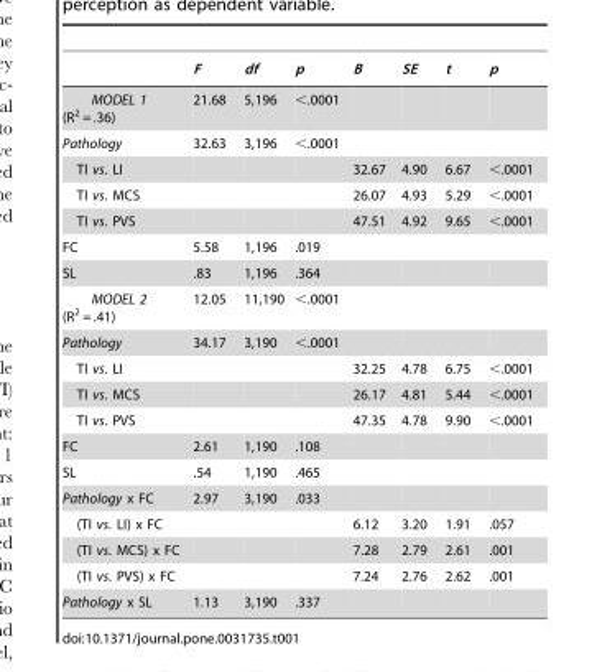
<table><thead><tr><td></td><td>F</td><td>df</td><td>p</td><td>B</td><td>SE</td><td>t</td><td>p</td></tr></thead><tbody><tr><td>MODEL 1 (R<sup>2</sup> = .36)</td><td>21.68</td><td>5,196</td><td>&lt;.0001</td><td></td><td></td><td></td><td></td></tr><tr><td>Pathology</td><td>32.63</td><td>3,196</td><td>&lt;.0001</td><td></td><td></td><td></td><td></td></tr><tr><td>TI vs. LI</td><td></td><td></td><td></td><td>32.67</td><td>4.90</td><td>6.67</td><td>&lt;.0001</td></tr><tr><td>TI vs. MCS</td><td></td><td></td><td></td><td>26.07</td><td>4.93</td><td>5.29</td><td>&lt;.0001</td></tr><tr><td>TI vs. PVS</td><td></td><td></td><td></td><td>47.51</td><td>4.92</td><td>9.65</td><td>&lt;.0001</td></tr><tr><td>FC</td><td>5.58</td><td>1,196</td><td>.019</td><td></td><td></td><td></td><td></td></tr><tr><td>SL</td><td>.83</td><td>1,196</td><td>.364</td><td></td><td></td><td></td><td></td></tr><tr><td>MODEL 2 (R<sup>2</sup> = .41)</td><td>12.05</td><td>11,190</td><td>&lt;.0001</td><td></td><td></td><td></td><td></td></tr><tr><td>Pathology</td><td>34.17</td><td>3,190</td><td>&lt;.0001</td><td></td><td></td><td></td><td></td></tr><tr><td>TI vs. LI</td><td></td><td></td><td></td><td>32.25</td><td>4.78</td><td>6.75</td><td>&lt;.0001</td></tr><tr><td>TI vs. MCS</td><td></td><td></td><td></td><td>26.17</td><td>4.81</td><td>5.44</td><td>&lt;.0001</td></tr><tr><td>TI vs. PVS</td><td></td><td></td><td></td><td>47.35</td><td>4.78</td><td>9.90</td><td>&lt;.0001</td></tr><tr><td>FC</td><td>2.61</td><td>1,190</td><td>.108</td><td></td><td></td><td></td><td></td></tr><tr><td>SL</td><td>.54</td><td>1,190</td><td>.465</td><td></td><td></td><td></td><td></td></tr><tr><td>Pathology x FC</td><td>2.97</td><td>3,190</td><td>.033</td><td></td><td></td><td></td><td></td></tr><tr><td>(TI vs. LI) x FC</td><td></td><td></td><td></td><td>6.12</td><td>3.20</td><td>1.91</td><td>.057</td></tr><tr><td>(TI vs. MCS) x FC</td><td></td><td></td><td></td><td>7.28</td><td>2.79</td><td>2.61</td><td>.001</td></tr><tr><td>(TI vs. PVS) x FC</td><td></td><td></td><td></td><td>7.24</td><td>2.76</td><td>2.62</td><td>.001</td></tr><tr><td>Pathology x SL</td><td>1.13</td><td>3,190</td><td>.337</td><td></td><td></td><td></td><td></td></tr></tbody></table>